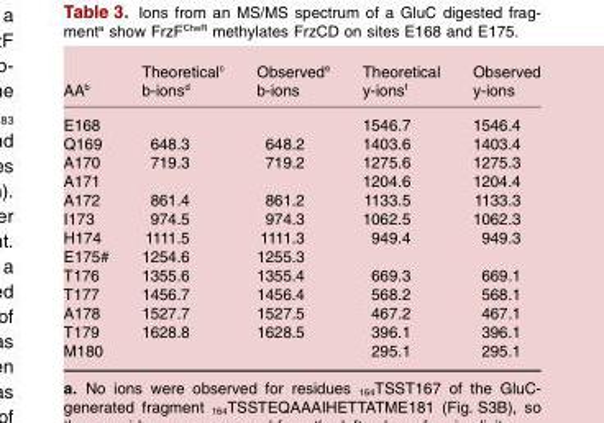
<table><thead><tr><td>AA<sup>b</sup></td><td>Theoretical<sup>c</sup> b-ions<sup>d</sup></td><td>Observed<sup>e</sup> b-ions</td><td>Theoretical y-ions<sup>f</sup></td><td>Observed y-ions</td></tr></thead><tbody><tr><td>E168</td><td></td><td></td><td>1546.7</td><td>1546.4</td></tr><tr><td>Q169</td><td>648.3</td><td>648.2</td><td>1403.6</td><td>1403.4</td></tr><tr><td>A170</td><td>719.3</td><td>719.2</td><td>1275.6</td><td>1275.3</td></tr><tr><td>A171</td><td></td><td></td><td>1204.6</td><td>1204.4</td></tr><tr><td>A172</td><td>861.4</td><td>861.2</td><td>1133.5</td><td>1133.3</td></tr><tr><td>I173</td><td>974.5</td><td>974.3</td><td>1062.5</td><td>1062.3</td></tr><tr><td>H174</td><td>1111.5</td><td>1111.3</td><td>949.4</td><td>949.3</td></tr><tr><td>E175#</td><td>1254.6</td><td>1255.3</td><td></td><td></td></tr><tr><td>T176</td><td>1355.6</td><td>1355.4</td><td>669.3</td><td>669.1</td></tr><tr><td>T177</td><td>1456.7</td><td>1456.4</td><td>568.2</td><td>568.1</td></tr><tr><td>A178</td><td>1527.7</td><td>1527.5</td><td>467.2</td><td>467.1</td></tr><tr><td>T179</td><td>1628.8</td><td>1628.5</td><td>396.1</td><td>396.1</td></tr><tr><td>M180</td><td></td><td></td><td>295.1</td><td>295.1</td></tr></tbody></table>